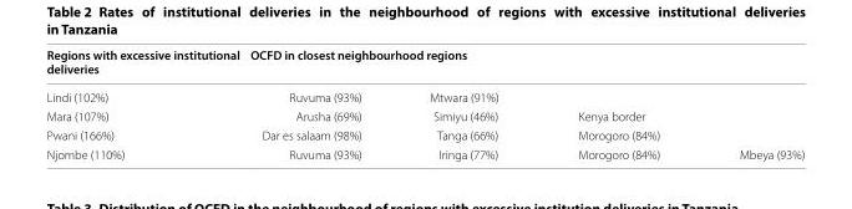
<table><thead><tr><td rowspan="2">Regions with excessive institutional deliveries Lindi (102%)</td><td colspan="4">OCFD in closest neighbourhood regions</td></tr><tr><td>Ruvuma (93%)</td><td>Mtwara (91%)</td><td></td><td></td></tr></thead><tbody><tr><td>Mara (107%)</td><td>Arusha (69%)</td><td>Simiyu (46%)</td><td>Kenya border</td><td></td></tr><tr><td>Pwani (166%)</td><td>Dar es salaam (98%)</td><td>Tanga (66%)</td><td>Morogoro (84%)</td><td></td></tr><tr><td>Njombe (110%)</td><td>Ruvuma (93%)</td><td>Iringa (77%)</td><td>Morogoro (84%)</td><td>Mbeya (93%)</td></tr></tbody></table>